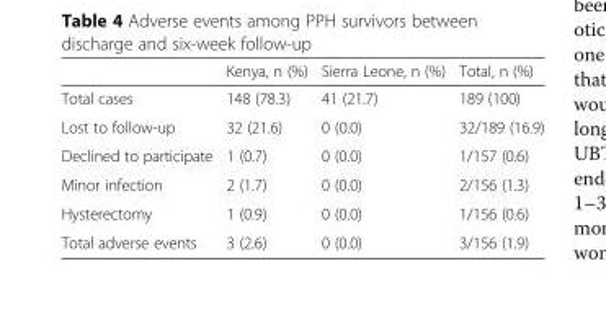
<table><thead><tr><td></td><td>Kenya, n (%)</td><td>Sierra Leone, n (%)</td><td>Total, n (%)</td></tr></thead><tbody><tr><td>Total cases</td><td>148 (78.3)</td><td>41 (21.7)</td><td>189 (100)</td></tr><tr><td>Lost to follow-up</td><td>32 (21.6)</td><td>0 (0.0)</td><td>32/189 (16.9)</td></tr><tr><td>Declined to participate</td><td>1 (0.7)</td><td>0 (0.0)</td><td>1/157 (0.6)</td></tr><tr><td>Minor infection</td><td>2 (1.7)</td><td>0 (0.0)</td><td>2/156 (1.3)</td></tr><tr><td>Hysterectomy</td><td>1 (0.9)</td><td>0 (0.0)</td><td>1/156 (0.6)</td></tr><tr><td>Total adverse events</td><td>3 (2.6)</td><td>0 (0.0)</td><td>3/156 (1.9)</td></tr></tbody></table>